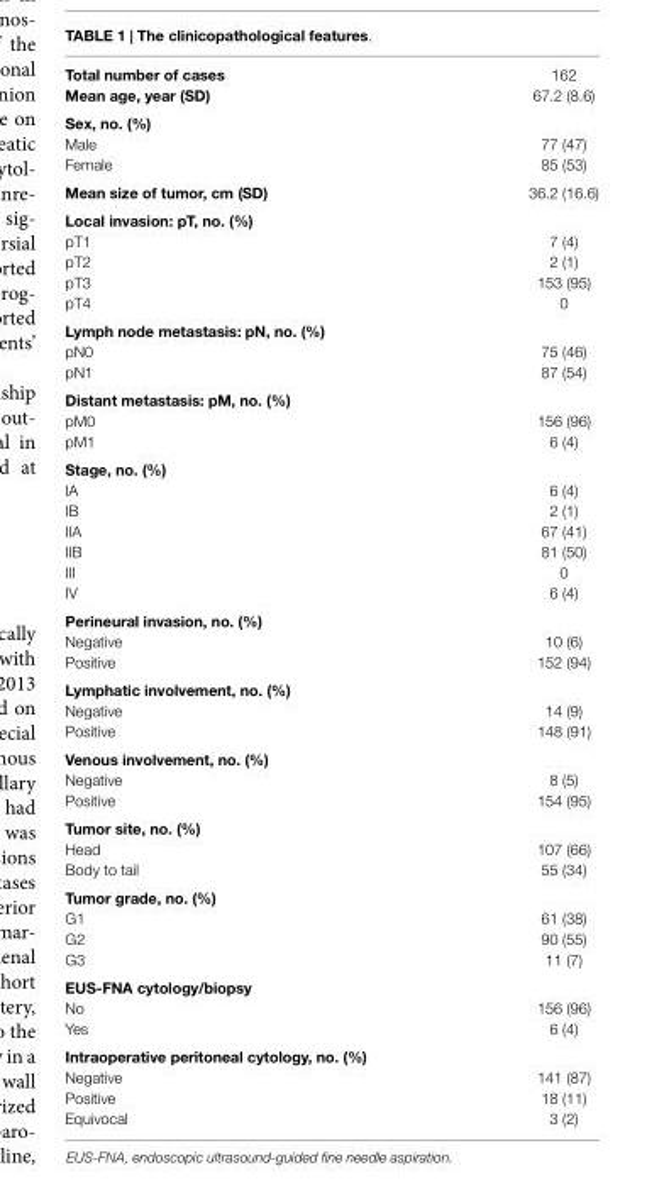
<table><tbody><tr><td>Total number of cases</td><td>162</td></tr><tr><td>Mean age, year (SD)</td><td>67.2 (8.6)</td></tr><tr><td colspan="2">Sex, no. (%)</td></tr><tr><td>Male</td><td>77 (47)</td></tr><tr><td>Female</td><td>85 (53)</td></tr><tr><td>Mean size of tumor, cm (SD)</td><td>36.2 (16.6)</td></tr><tr><td colspan="2">Local invasion: pT, no. (%)</td></tr><tr><td>pT1</td><td>7 (4)</td></tr><tr><td>pT2</td><td>2 (1)</td></tr><tr><td>pT3</td><td>153 (95)</td></tr><tr><td>pT4</td><td>0</td></tr><tr><td colspan="2">Lymph node metastasis: pN, no. (%)</td></tr><tr><td>pN0</td><td>75 (46)</td></tr><tr><td>pN1</td><td>87 (54)</td></tr><tr><td colspan="2">Distant metastasis: pM, no. (%)</td></tr><tr><td>pM0</td><td>156 (96)</td></tr><tr><td>pM1</td><td>6 (4)</td></tr><tr><td colspan="2">Stage, no. (%)</td></tr><tr><td>IA</td><td>6 (4)</td></tr><tr><td>IB</td><td>2 (1)</td></tr><tr><td>IIA</td><td>67 (41)</td></tr><tr><td>IIB</td><td>81 (50)</td></tr><tr><td>III</td><td>0</td></tr><tr><td>IV</td><td>6 (4)</td></tr><tr><td colspan="2">Perineural invasion, no. (%)</td></tr><tr><td>Negative</td><td>10 (6)</td></tr><tr><td>Positive</td><td>152 (94)</td></tr><tr><td colspan="2">Lymphatic involvement, no. (%)</td></tr><tr><td>Negative</td><td>14 (9)</td></tr><tr><td>Positive</td><td>148 (91)</td></tr><tr><td colspan="2">Venous involvement, no. (%)</td></tr><tr><td>Negative</td><td>8 (5)</td></tr><tr><td>Positive</td><td>154 (95)</td></tr><tr><td colspan="2">Tumor site, no. (%)</td></tr><tr><td>Head</td><td>107 (66)</td></tr><tr><td>Body to tail</td><td>55 (34)</td></tr><tr><td colspan="2">Tumor grade, no. (%)</td></tr><tr><td>G1</td><td>61 (38)</td></tr><tr><td>G2</td><td>90 (55)</td></tr><tr><td>G3</td><td>11 (7)</td></tr><tr><td colspan="2">EUS-FNA cytology/biopsy</td></tr><tr><td>No</td><td>156 (96)</td></tr><tr><td>Yes</td><td>6 (4)</td></tr><tr><td colspan="2">Intraoperative peritoneal cytology, no. (%)</td></tr><tr><td>Negative</td><td>141 (87)</td></tr><tr><td>Positive</td><td>18 (11)</td></tr><tr><td>Equivocal</td><td>3 (2)</td></tr></tbody></table>